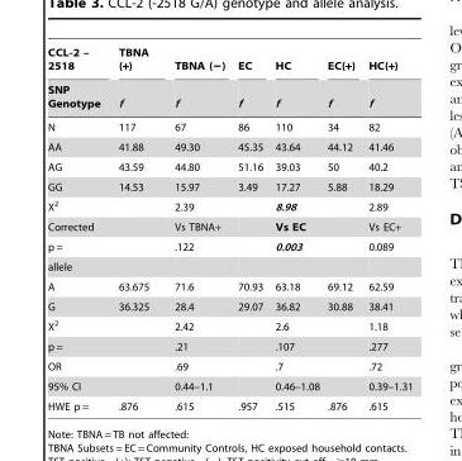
<table><thead><tr><td rowspan="2">CCL-2 – 2518 SNP Genotype</td><td rowspan="2">TBNA (+) f</td><td rowspan="2">TBNA (−) f</td><td rowspan="2">EC f</td><td rowspan="2">HC f</td><td rowspan="2">EC(+) f</td><td rowspan="2">HC(+) f</td></tr><tr></tr></thead><tbody><tr><td>N</td><td>117</td><td>67</td><td>86</td><td>110</td><td>34</td><td>82</td></tr><tr><td>AA</td><td>41.88</td><td>49.30</td><td>45.35</td><td>43.64</td><td>44.12</td><td>41.46</td></tr><tr><td>AG</td><td>43.59</td><td>44.80</td><td>51.16</td><td>39.03</td><td>50</td><td>40.2</td></tr><tr><td>GG</td><td>14.53</td><td>15.97</td><td>3.49</td><td>17.27</td><td>5.88</td><td>18.29</td></tr><tr><td>X<sup>2</sup></td><td></td><td>2.39</td><td></td><td>8.98</td><td></td><td>2.89</td></tr><tr><td>Corrected</td><td></td><td>Vs TBNA+</td><td></td><td>Vs EC</td><td></td><td>Vs EC+</td></tr><tr><td>p =</td><td></td><td>.122</td><td></td><td>0.003</td><td></td><td>0.089</td></tr><tr><td colspan="7">allele</td></tr><tr><td>A</td><td>63.675</td><td>71.6</td><td>70.93</td><td>63.18</td><td>69.12</td><td>62.59</td></tr><tr><td>G</td><td>36.325</td><td>28.4</td><td>29.07</td><td>36.82</td><td>30.88</td><td>38.41</td></tr><tr><td>X<sup>2</sup></td><td></td><td>2.42</td><td></td><td>2.6</td><td></td><td>1.18</td></tr><tr><td>p =</td><td></td><td>.21</td><td></td><td>.107</td><td></td><td>.277</td></tr><tr><td>OR</td><td></td><td>.69</td><td></td><td>.7</td><td></td><td>.72</td></tr><tr><td>95% CI</td><td></td><td>0.44–1.1</td><td></td><td>0.46–1.08</td><td></td><td>0.39–1.31</td></tr><tr><td>HWE p =</td><td>.876</td><td>.615</td><td>.957</td><td>.515</td><td>.876</td><td>.615</td></tr></tbody></table>